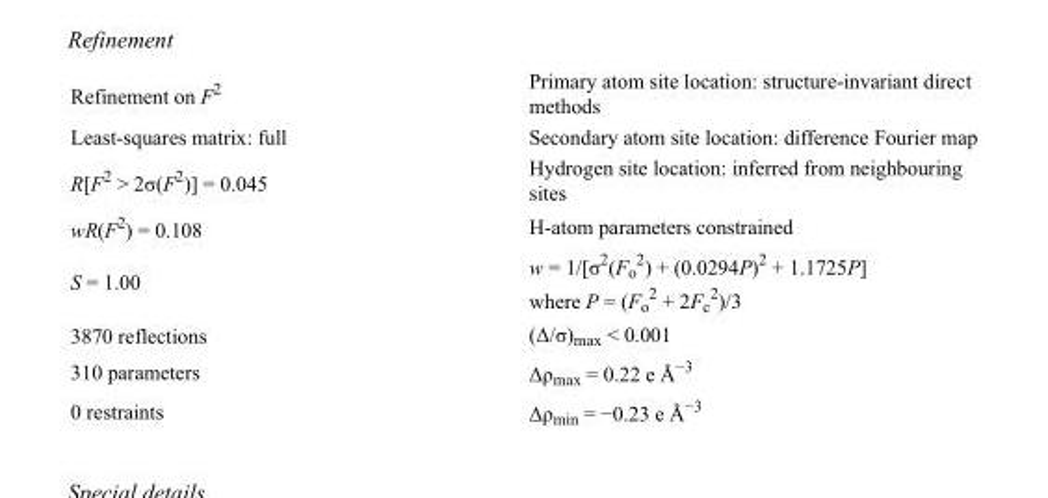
<table><tbody><tr><td>Refinement on F<sup>2</sup></td><td>Primary atom site location: structure-invariant direct methods</td></tr><tr><td>Least-squares matrix: full</td><td>Secondary atom site location: difference Fourier map</td></tr><tr><td>R[F<sup>2</sup> &gt; 2σ(F<sup>2</sup>)] = 0.045</td><td>Hydrogen site location: inferred from neighbouring sites</td></tr><tr><td>wR(F<sup>2</sup>) = 0.108</td><td>H-atom parameters constrained</td></tr><tr><td>S = 1.00</td><td>w = 1/[σ<sup>2</sup>(F<sub>o</sub> <sup>2</sup>) + (0.0294P)<sup>2</sup> + 1.1725P] where P = (F<sub>o</sub> <sup>2</sup> + 2F<sub>c</sub> <sup>2</sup>)/3</td></tr><tr><td>3870 reflections</td><td>(Δ/σ)<sub>max</sub> &lt; 0.001</td></tr><tr><td>310 parameters</td><td>Δρ<sub>max</sub> = 0.22 e Å<sup>−3</sup></td></tr><tr><td>0 restraints</td><td>Δρ<sub>min</sub> = −0.23 e Å<sup>−3</sup></td></tr></tbody></table>